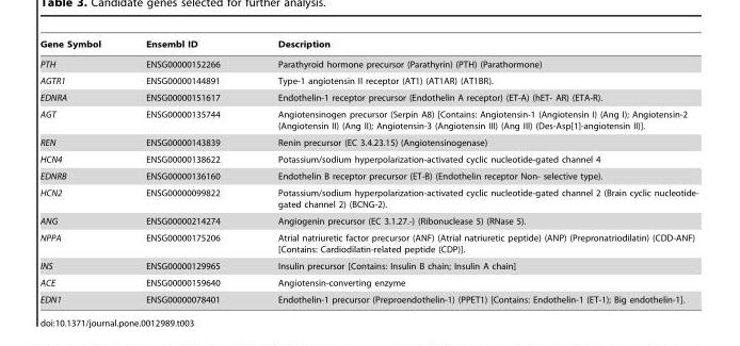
<table><thead><tr><td>Gene Symbol</td><td>Ensembl ID</td><td>Description</td></tr></thead><tbody><tr><td>PTH</td><td>ENSG00000152266</td><td>Parathyroid hormone precursor (Parathyrin) (PTH) (Parathormone)</td></tr><tr><td>AGTR1</td><td>ENSG00000144891</td><td>Type-1 angiotensin II receptor (AT1) (AT1AR) (AT1BR).</td></tr><tr><td>EDNRA</td><td>ENSG00000151617</td><td>Endothelin-1 receptor precursor (Endothelin A receptor) (ET-A) (hET- AR) (ETA-R).</td></tr><tr><td>AGT</td><td>ENSG00000135744</td><td>Angiotensinogen precursor (Serpin A8) [Contains: Angiotensin-1 (Angiotensin I) (Ang I); Angiotensin-2 (Angiotensin II) (Ang II); Angiotensin-3 (Angiotensin III) (Ang III) (Des-Asp[1]-angiotensin II)].</td></tr><tr><td>REN</td><td>ENSG00000143839</td><td>Renin precursor (EC 3.4.23.15) (Angiotensinogenase)</td></tr><tr><td>HCN4</td><td>ENSG00000138622</td><td>Potassium/sodium hyperpolarization-activated cyclic nucleotide-gated channel 4</td></tr><tr><td>EDNRB</td><td>ENSG00000136160</td><td>Endothelin B receptor precursor (ET-B) (Endothelin receptor Non- selective type).</td></tr><tr><td>HCN2</td><td>ENSG00000099822</td><td>Potassium/sodium hyperpolarization-activated cyclic nucleotide-gated channel 2 (Brain cyclic nucleotide- gated channel 2) (BCNG-2).</td></tr><tr><td>ANG</td><td>ENSG00000214274</td><td>Angiogenin precursor (EC 3.1.27.-) (Ribonuclease 5) (RNase 5).</td></tr><tr><td>NPPA</td><td>ENSG00000175206</td><td>Atrial natriuretic factor precursor (ANF) (Atrial natriuretic peptide) (ANP) (Prepronatriodilatin) (CDD-ANF) [Contains: Cardiodilatin-related peptide (CDP)].</td></tr><tr><td>INS</td><td>ENSG00000129965</td><td>Insulin precursor [Contains: Insulin B chain; Insulin A chain]</td></tr><tr><td>ACE</td><td>ENSG00000159640</td><td>Angiotensin-converting enzyme</td></tr><tr><td>EDN1</td><td>ENSG00000078401</td><td>Endothelin-1 precursor (Preproendothelin-1) (PPET1) [Contains: Endothelin-1 (ET-1); Big endothelin-1].</td></tr></tbody></table>